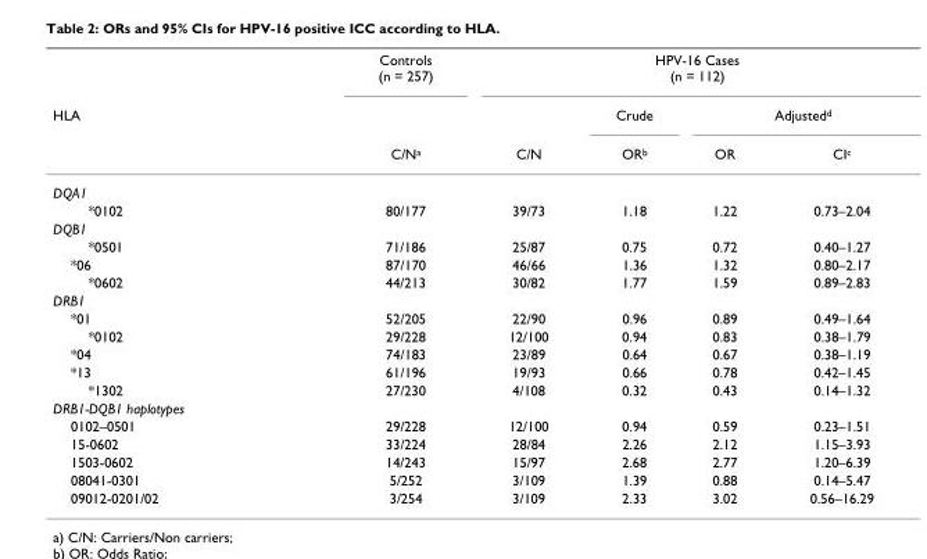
<table><thead><tr><td rowspan="3">HLA</td><td rowspan="3">Controls (n = 257) C/N<sup>a</sup></td><td colspan="4">HPV-16 Cases (n = 112)</td></tr><tr><td rowspan="2">C/N</td><td rowspan="2">Crude OR<sup>b</sup></td><td colspan="2">Adjusted<sup>d</sup></td></tr><tr><td>OR</td><td>CI<sup>c</sup></td></tr></thead><tbody><tr><td colspan="6">DQA1</td></tr><tr><td>*0102</td><td>80/177</td><td>39/73</td><td>1.18</td><td>1.22</td><td>0.73–2.04</td></tr><tr><td colspan="6">DQB1</td></tr><tr><td>*0501</td><td>71/186</td><td>25/87</td><td>0.75</td><td>0.72</td><td>0.40–1.27</td></tr><tr><td>*06</td><td>87/170</td><td>46/66</td><td>1.36</td><td>1.32</td><td>0.80–2.17</td></tr><tr><td>*0602</td><td>44/213</td><td>30/82</td><td>1.77</td><td>1.59</td><td>0.89–2.83</td></tr><tr><td colspan="6">DRB1</td></tr><tr><td>*01</td><td>52/205</td><td>22/90</td><td>0.96</td><td>0.89</td><td>0.49–1.64</td></tr><tr><td>*0102</td><td>29/228</td><td>12/100</td><td>0.94</td><td>0.83</td><td>0.38–1.79</td></tr><tr><td>*04</td><td>74/183</td><td>23/89</td><td>0.64</td><td>0.67</td><td>0.38–1.19</td></tr><tr><td>*13</td><td>61/196</td><td>19/93</td><td>0.66</td><td>0.78</td><td>0.42–1.45</td></tr><tr><td>*1302</td><td>27/230</td><td>4/108</td><td>0.32</td><td>0.43</td><td>0.14–1.32</td></tr><tr><td colspan="6">DRB1-DQB1 haplotypes</td></tr><tr><td>0102–0501</td><td>29/228</td><td>12/100</td><td>0.94</td><td>0.59</td><td>0.23–1.51</td></tr><tr><td>15-0602</td><td>33/224</td><td>28/84</td><td>2.26</td><td>2.12</td><td>1.15–3.93</td></tr><tr><td>1503-0602</td><td>14/243</td><td>15/97</td><td>2.68</td><td>2.77</td><td>1.20–6.39</td></tr><tr><td>08041-0301</td><td>5/252</td><td>3/109</td><td>1.39</td><td>0.88</td><td>0.14–5.47</td></tr><tr><td>09012-0201/02</td><td>3/254</td><td>3/109</td><td>2.33</td><td>3.02</td><td>0.56–16.29</td></tr></tbody></table>